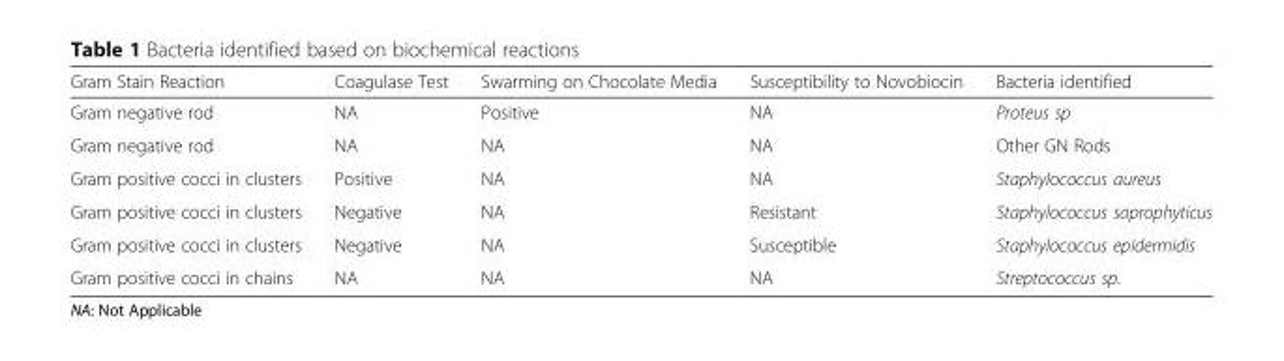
<table><thead><tr><td>Gram Stain Reaction</td><td>Coagulase Test</td><td>Swarming on Chocolate Media</td><td>Susceptibility to Novobiocin</td><td>Bacteria identified</td></tr></thead><tbody><tr><td>Gram negative rod</td><td>NA</td><td>Positive</td><td>NA</td><td>Proteus sp</td></tr><tr><td>Gram negative rod</td><td>NA</td><td>NA</td><td>NA</td><td>Other GN Rods</td></tr><tr><td>Gram positive cocci in clusters</td><td>Positive</td><td>NA</td><td>NA</td><td>Staphylococcus aureus</td></tr><tr><td>Gram positive cocci in clusters</td><td>Negative</td><td>NA</td><td>Resistant</td><td>Staphylococcus saprophyticus</td></tr><tr><td>Gram positive cocci in clusters</td><td>Negative</td><td>NA</td><td>Susceptible</td><td>Staphylococcus epidermidis</td></tr><tr><td>Gram positive cocci in chains</td><td>NA</td><td>NA</td><td>NA</td><td>Streptococcus sp.</td></tr></tbody></table>